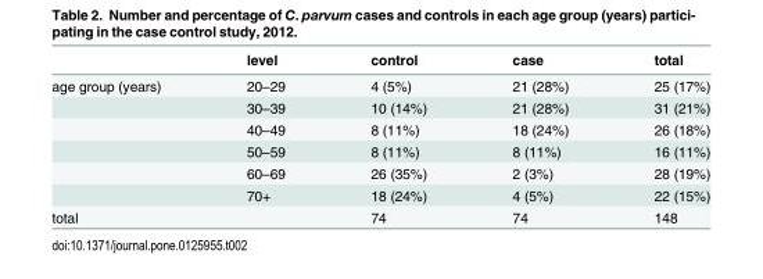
<table><thead><tr><td></td><td>level</td><td>control</td><td>case</td><td>total</td></tr></thead><tbody><tr><td rowspan="6">age group (years)</td><td>20–29</td><td>4 (5%)</td><td>21 (28%)</td><td>25 (17%)</td></tr><tr><td>30–39</td><td>10 (14%)</td><td>21 (28%)</td><td>31 (21%)</td></tr><tr><td>40–49</td><td>8 (11%)</td><td>18 (24%)</td><td>26 (18%)</td></tr><tr><td>50–59</td><td>8 (11%)</td><td>8 (11%)</td><td>16 (11%)</td></tr><tr><td>60–69</td><td>26 (35%)</td><td>2 (3%)</td><td>28 (19%)</td></tr><tr><td>70+</td><td>18 (24%)</td><td>4 (5%)</td><td>22 (15%)</td></tr><tr><td>total</td><td></td><td>74</td><td>74</td><td>148</td></tr></tbody></table>